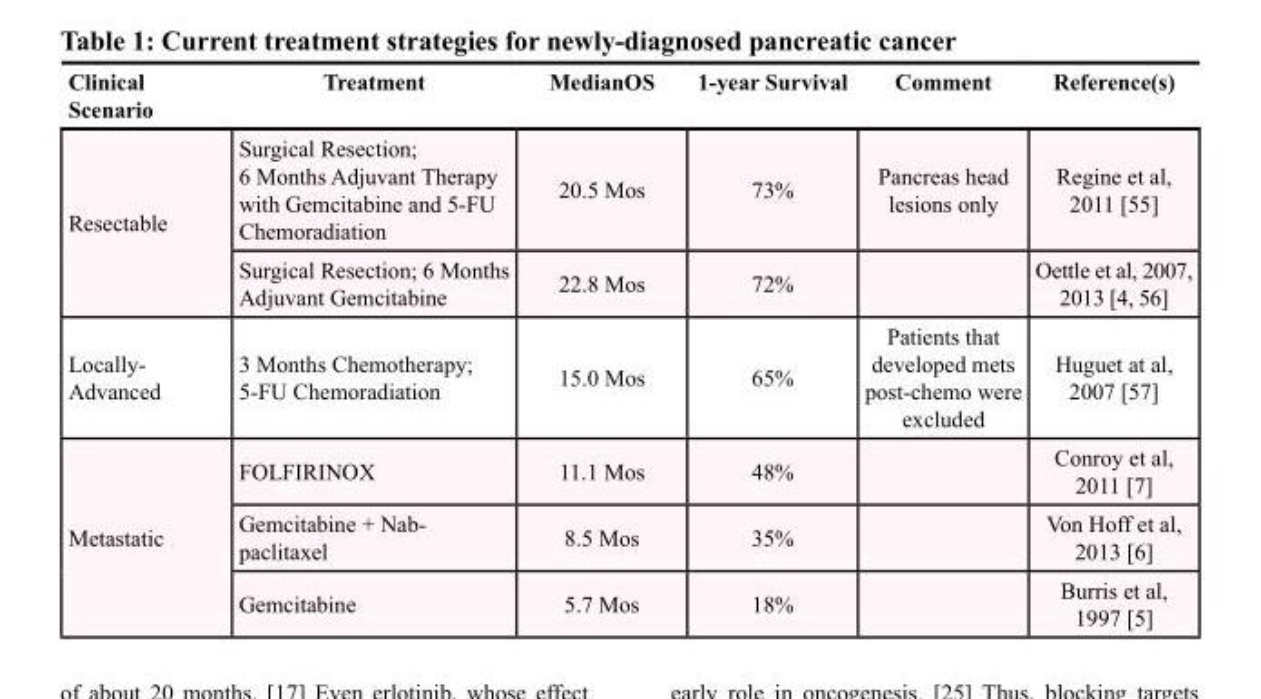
<table><thead><tr><td>Clinical Scenario</td><td>Treatment</td><td>MedianOS</td><td>1-year Survival</td><td>Comment</td><td>Reference(s)</td></tr></thead><tbody><tr><td rowspan="2">Resectable</td><td>Surgical Resection; 6 Months Adjuvant Therapy with Gemcitabine and 5-FU Chemoradiation</td><td>20.5 Mos</td><td>73%</td><td>Pancreas head lesions only</td><td>Regine et al, 2011 [55]</td></tr><tr><td>Surgical Resection; 6 Months Adjuvant Gemcitabine</td><td>22.8 Mos</td><td>72%</td><td></td><td>Oettle et al, 2007, 2013 [4, 56]</td></tr><tr><td>Locally- Advanced</td><td>3 Months Chemotherapy; 5-FU Chemoradiation</td><td>15.0 Mos</td><td>65%</td><td>Patients that developed mets post-chemo were excluded</td><td>Huguet at al, 2007 [57]</td></tr><tr><td rowspan="3">Metastatic</td><td>FOLFIRINOX</td><td>11.1 Mos</td><td>48%</td><td></td><td>Conroy et al, 2011 [7]</td></tr><tr><td>Gemcitabine + Nab- paclitaxel</td><td>8.5 Mos</td><td>35%</td><td></td><td>Von Hoff et al, 2013 [6]</td></tr><tr><td>Gemcitabine</td><td>5.7 Mos</td><td>18%</td><td></td><td>Burris et al, 1997 [5]</td></tr></tbody></table>